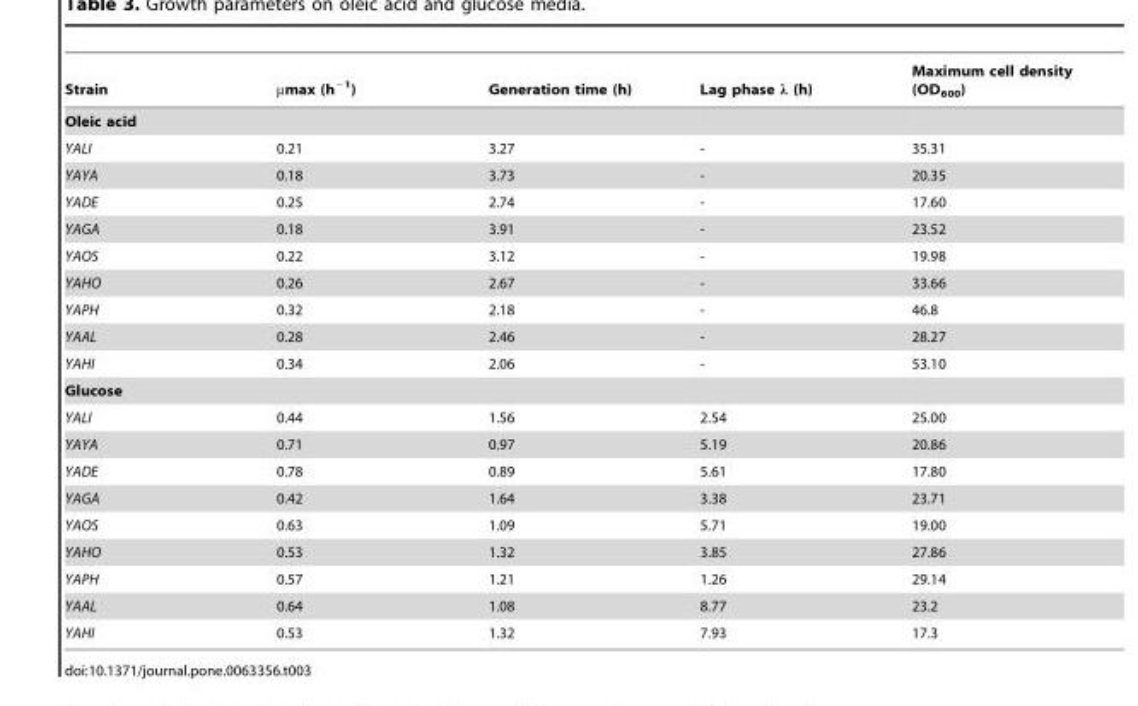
<table><thead><tr><td>Strain</td><td>µmax (h<sup>−1</sup>)</td><td>Generation time (h)</td><td>Lag phase λ (h)</td><td>Maximum cell density (OD<sub>600</sub>)</td></tr></thead><tbody><tr><td colspan="5">Oleic acid</td></tr><tr><td>YALI</td><td>0.21</td><td>3.27</td><td>-</td><td>35.31</td></tr><tr><td>YAYA</td><td>0.18</td><td>3.73</td><td>-</td><td>20.35</td></tr><tr><td>YADE</td><td>0.25</td><td>2.74</td><td>-</td><td>17.60</td></tr><tr><td>YAGA</td><td>0.18</td><td>3.91</td><td>-</td><td>23.52</td></tr><tr><td>YAOS</td><td>0.22</td><td>3.12</td><td>-</td><td>19.98</td></tr><tr><td>YAHO</td><td>0.26</td><td>2.67</td><td>-</td><td>33.66</td></tr><tr><td>YAPH</td><td>0.32</td><td>2.18</td><td>-</td><td>46.8</td></tr><tr><td>YAAL</td><td>0.28</td><td>2.46</td><td>-</td><td>28.27</td></tr><tr><td>YAHI</td><td>0.34</td><td>2.06</td><td>-</td><td>53.10</td></tr><tr><td colspan="5">Glucose</td></tr><tr><td>YALI</td><td>0.44</td><td>1.56</td><td>2.54</td><td>25.00</td></tr><tr><td>YAYA</td><td>0.71</td><td>0.97</td><td>5.19</td><td>20.86</td></tr><tr><td>YADE</td><td>0.78</td><td>0.89</td><td>5.61</td><td>17.80</td></tr><tr><td>YAGA</td><td>0.42</td><td>1.64</td><td>3.38</td><td>23.71</td></tr><tr><td>YAOS</td><td>0.63</td><td>1.09</td><td>5.71</td><td>19.00</td></tr><tr><td>YAHO</td><td>0.53</td><td>1.32</td><td>3.85</td><td>27.86</td></tr><tr><td>YAPH</td><td>0.57</td><td>1.21</td><td>1.26</td><td>29.14</td></tr><tr><td>YAAL</td><td>0.64</td><td>1.08</td><td>8.77</td><td>23.2</td></tr><tr><td>YAHI</td><td>0.53</td><td>1.32</td><td>7.93</td><td>17.3</td></tr></tbody></table>